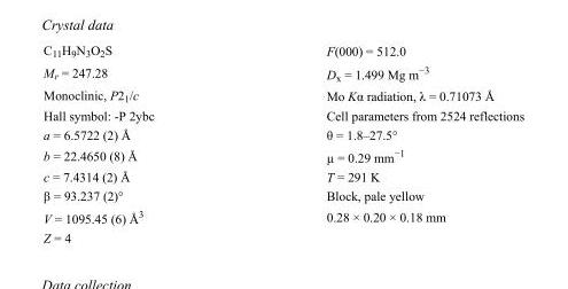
<table><tbody><tr><td>C<sub>11</sub>H<sub>9</sub>N<sub>3</sub>O<sub>2</sub>S</td><td>F(000) = 512.0</td></tr><tr><td>M<sub>r</sub> = 247.28</td><td>D<sub>x</sub> = 1.499 Mg m<sup>−3</sup></td></tr><tr><td>Monoclinic, P2<sub>1</sub>/c</td><td>Mo Kα radiation, λ = 0.71073 Å</td></tr><tr><td>Hall symbol: -P 2ybc</td><td>Cell parameters from 2524 reflections</td></tr><tr><td>a = 6.5722 (2) Å</td><td>θ = 1.8–27.5°</td></tr><tr><td>b = 22.4650 (8) Å</td><td>µ = 0.29 mm<sup>−1</sup></td></tr><tr><td>c = 7.4314 (2) Å</td><td>T = 291 K</td></tr><tr><td>β = 93.237 (2)°</td><td>Block, pale yellow</td></tr><tr><td>V = 1095.45 (6) Å<sup>3</sup></td><td>0.28 × 0.20 × 0.18 mm</td></tr><tr><td>Z = 4</td><td></td></tr></tbody></table>